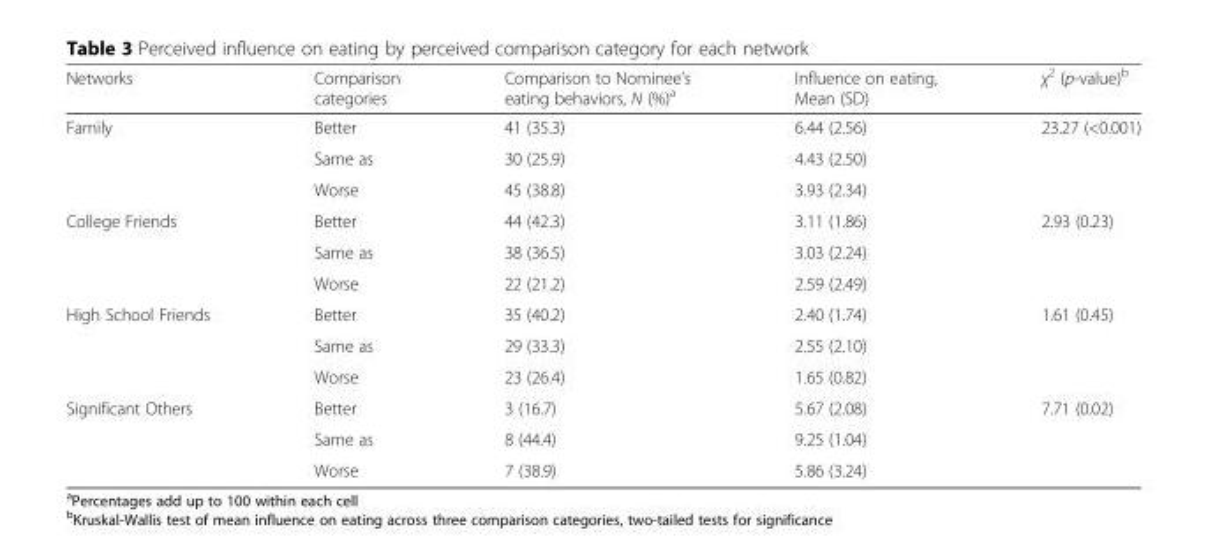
<table><thead><tr><td>Networks</td><td>Comparison categories</td><td>Comparison to Nominee’s eating behaviors, N (%)<sup>a</sup></td><td>Influence on eating, Mean (SD)</td><td>χ<sup>2</sup> (p-value)<sup>b</sup></td></tr></thead><tbody><tr><td rowspan="3">Family</td><td>Better</td><td>41 (35.3)</td><td>6.44 (2.56)</td><td rowspan="3">23.27 (&lt;0.001)</td></tr><tr><td>Same as</td><td>30 (25.9)</td><td>4.43 (2.50)</td></tr><tr><td>Worse</td><td>45 (38.8)</td><td>3.93 (2.34)</td></tr><tr><td rowspan="3">College Friends</td><td>Better</td><td>44 (42.3)</td><td>3.11 (1.86)</td><td rowspan="3">2.93 (0.23)</td></tr><tr><td>Same as</td><td>38 (36.5)</td><td>3.03 (2.24)</td></tr><tr><td>Worse</td><td>22 (21.2)</td><td>2.59 (2.49)</td></tr><tr><td rowspan="3">High School Friends</td><td>Better</td><td>35 (40.2)</td><td>2.40 (1.74)</td><td rowspan="3">1.61 (0.45)</td></tr><tr><td>Same as</td><td>29 (33.3)</td><td>2.55 (2.10)</td></tr><tr><td>Worse</td><td>23 (26.4)</td><td>1.65 (0.82)</td></tr><tr><td rowspan="3">Significant Others</td><td>Better</td><td>3 (16.7)</td><td>5.67 (2.08)</td><td rowspan="3">7.71 (0.02)</td></tr><tr><td>Same as</td><td>8 (44.4)</td><td>9.25 (1.04)</td></tr><tr><td>Worse</td><td>7 (38.9)</td><td>5.86 (3.24)</td></tr></tbody></table>